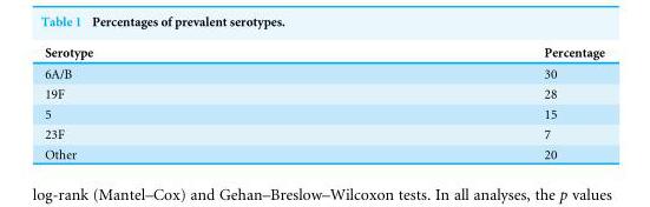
<table><thead><tr><td>Serotype</td><td>Percentage</td></tr></thead><tbody><tr><td>6A/B</td><td>30</td></tr><tr><td>19F</td><td>28</td></tr><tr><td>5</td><td>15</td></tr><tr><td>23F</td><td>7</td></tr><tr><td>Other</td><td>20</td></tr></tbody></table>